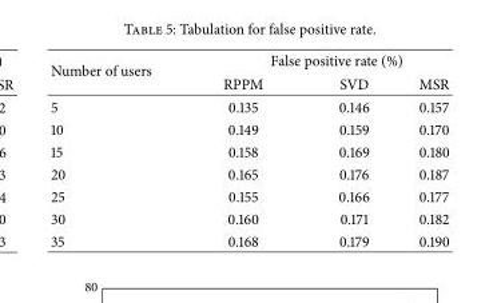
<table><thead><tr><td rowspan="2">Number of users</td><td colspan="3">False positive rate (%)</td></tr><tr><td>RPPM</td><td>SVD</td><td>MSR</td></tr></thead><tbody><tr><td>5</td><td>0.135</td><td>0.146</td><td>0.157</td></tr><tr><td>10</td><td>0.149</td><td>0.159</td><td>0.170</td></tr><tr><td>15</td><td>0.158</td><td>0.169</td><td>0.180</td></tr><tr><td>20</td><td>0.165</td><td>0.176</td><td>0.187</td></tr><tr><td>25</td><td>0.155</td><td>0.166</td><td>0.177</td></tr><tr><td>30</td><td>0.160</td><td>0.171</td><td>0.182</td></tr><tr><td>35</td><td>0.168</td><td>0.179</td><td>0.190</td></tr></tbody></table>